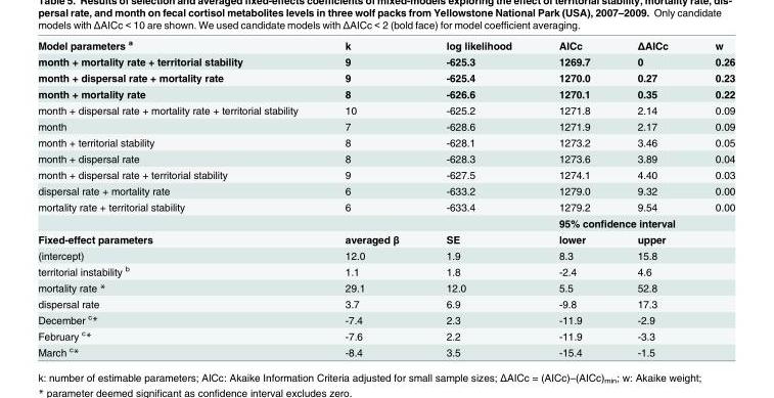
<table><tbody><tr><td>Model parameters <sup>a</sup></td><td>k</td><td>log likelihood</td><td>AICc</td><td>ΔAICc</td><td>w</td></tr><tr><td>month + mortality rate + territorial stability</td><td>9</td><td>-625.3</td><td>1269.7</td><td>0</td><td>0.26</td></tr><tr><td>month + dispersal rate + mortality rate</td><td>9</td><td>-625.4</td><td>1270.0</td><td>0.27</td><td>0.23</td></tr><tr><td>month + mortality rate</td><td>8</td><td>-626.6</td><td>1270.1</td><td>0.35</td><td>0.22</td></tr><tr><td>month + dispersal rate + mortality rate + territorial stability</td><td>10</td><td>-625.2</td><td>1271.8</td><td>2.14</td><td>0.09</td></tr><tr><td>month</td><td>7</td><td>-628.6</td><td>1271.9</td><td>2.17</td><td>0.09</td></tr><tr><td>month + territorial stability</td><td>8</td><td>-628.1</td><td>1273.2</td><td>3.46</td><td>0.05</td></tr><tr><td>month + dispersal rate</td><td>8</td><td>-628.3</td><td>1273.6</td><td>3.89</td><td>0.04</td></tr><tr><td>month + dispersal rate + territorial stability</td><td>9</td><td>-627.5</td><td>1274.1</td><td>4.40</td><td>0.03</td></tr><tr><td>dispersal rate + mortality rate</td><td>6</td><td>-633.2</td><td>1279.0</td><td>9.32</td><td>0.00</td></tr><tr><td rowspan="2">mortality rate + territorial stability</td><td>6</td><td>-633.4</td><td>1279.2</td><td>9.54</td><td>0.00</td></tr><tr><td></td><td></td><td colspan="3">95% confidence interval</td></tr><tr><td>Fixed-effect parameters</td><td>averaged β</td><td>SE</td><td>lower</td><td colspan="2">upper</td></tr><tr><td>(intercept)</td><td>12.0</td><td>1.9</td><td>8.3</td><td colspan="2">15.8</td></tr><tr><td>territorial instability <sup>b</sup></td><td>1.1</td><td>1.8</td><td>-2.4</td><td colspan="2">4.6</td></tr><tr><td>mortality rate *</td><td>29.1</td><td>12.0</td><td>5.5</td><td colspan="2">52.8</td></tr><tr><td>dispersal rate</td><td>3.7</td><td>6.9</td><td>-9.8</td><td colspan="2">17.3</td></tr><tr><td>December <sup>c</sup>*</td><td>-7.4</td><td>2.3</td><td>-11.9</td><td colspan="2">-2.9</td></tr><tr><td>February <sup>c</sup>*</td><td>-7.6</td><td>2.2</td><td>-11.9</td><td colspan="2">-3.3</td></tr><tr><td>March <sup>c</sup>*</td><td>-8.4</td><td>3.5</td><td>-15.4</td><td colspan="2">-1.5</td></tr></tbody></table>